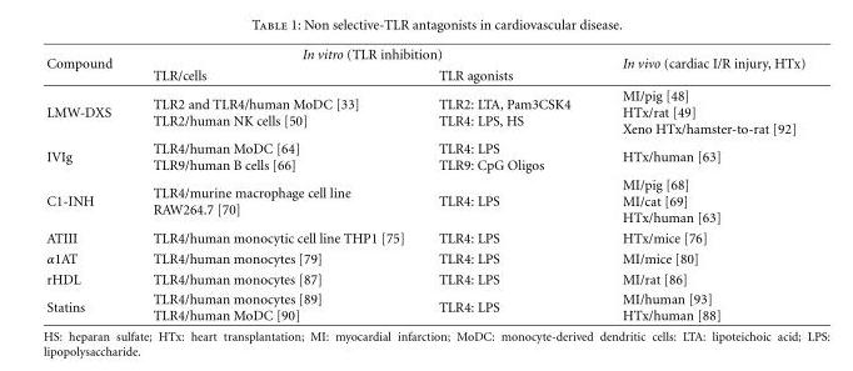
<table><thead><tr><td rowspan="2">Compound</td><td colspan="2">In vitro (TLR inhibition)</td><td rowspan="2">In vivo (cardiac I/R injury, HTx)</td></tr><tr><td>TLR/cells</td><td>TLR agonists</td></tr></thead><tbody><tr><td>LMW-DXS</td><td>TLR2 and TLR4/human MoDC [33] TLR2/human NK cells [50]</td><td>TLR2: LTA, Pam3CSK4 TLR4: LPS, HS</td><td>MI/pig [48] HTx/rat [49] Xeno HTx/hamster-to-rat [92]</td></tr><tr><td>IVIg</td><td>TLR4/human MoDC [64] TLR9/human B cells [66]</td><td>TLR4: LPS TLR9: CpG Oligos</td><td>HTx/human [63]</td></tr><tr><td>C1-INH</td><td>TLR4/murine macrophage cell line RAW264.7 [70]</td><td>TLR4: LPS</td><td>MI/pig [68] MI/cat [69] HTx/human [63]</td></tr><tr><td>ATIII</td><td>TLR4/human monocytic cell line THP1 [75]</td><td>TLR4: LPS</td><td>HTx/mice [76]</td></tr><tr><td>α1AT</td><td>TLR4/human monocytes [79]</td><td>TLR4: LPS</td><td>MI/mice [80]</td></tr><tr><td>rHDL</td><td>TLR4/human monocytes [87]</td><td>TLR4: LPS</td><td>MI/rat [86]</td></tr><tr><td>Statins</td><td>TLR4/human monocytes [89] TLR4/human MoDC [90]</td><td>TLR4: LPS</td><td>MI/human [93] HTx/human [88]</td></tr></tbody></table>